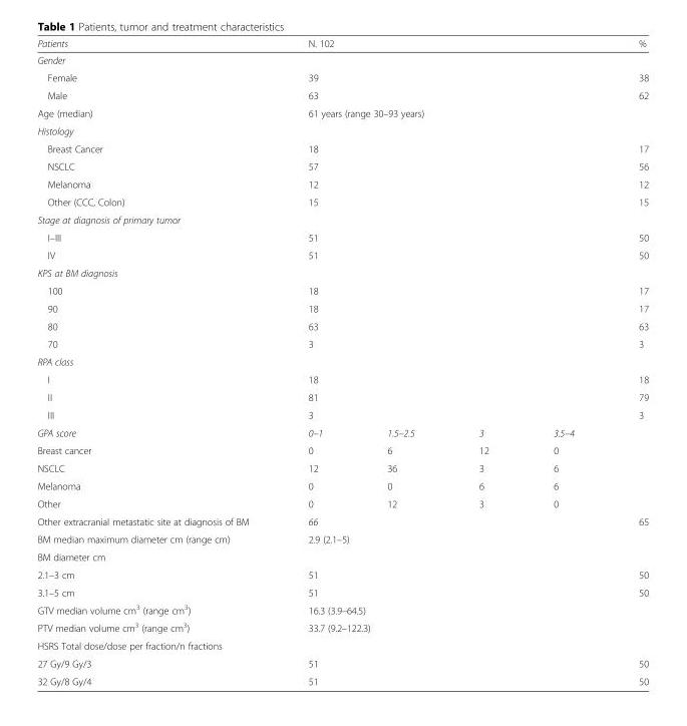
<table><thead><tr><td>Patients</td><td colspan="4">N. 102</td><td>%</td></tr></thead><tbody><tr><td colspan="6">Gender</td></tr><tr><td>Female</td><td colspan="4">39</td><td>38</td></tr><tr><td>Male</td><td colspan="4">63</td><td>62</td></tr><tr><td>Age (median)</td><td colspan="4">61 years (range 30–93 years)</td><td></td></tr><tr><td colspan="6">Histology</td></tr><tr><td>Breast Cancer</td><td colspan="4">18</td><td>17</td></tr><tr><td>NSCLC</td><td colspan="4">57</td><td>56</td></tr><tr><td>Melanoma</td><td colspan="4">12</td><td>12</td></tr><tr><td>Other (CCC, Colon)</td><td colspan="4">15</td><td>15</td></tr><tr><td colspan="6">Stage at diagnosis of primary tumor</td></tr><tr><td>I–III</td><td colspan="4">51</td><td>50</td></tr><tr><td>IV</td><td colspan="4">51</td><td>50</td></tr><tr><td colspan="6">KPS at BM diagnosis</td></tr><tr><td>100</td><td colspan="4">18</td><td>17</td></tr><tr><td>90</td><td colspan="4">18</td><td>17</td></tr><tr><td>80</td><td colspan="4">63</td><td>63</td></tr><tr><td>70</td><td colspan="4">3</td><td>3</td></tr><tr><td colspan="6">RPA class</td></tr><tr><td>I</td><td colspan="4">18</td><td>18</td></tr><tr><td>II</td><td colspan="4">81</td><td>79</td></tr><tr><td>III</td><td colspan="4">3</td><td>3</td></tr><tr><td>GPA score</td><td>0–1</td><td>1.5–2.5</td><td>3</td><td>3.5–4</td><td></td></tr><tr><td>Breast cancer</td><td>0</td><td>6</td><td>12</td><td>0</td><td></td></tr><tr><td>NSCLC</td><td>12</td><td>36</td><td>3</td><td>6</td><td></td></tr><tr><td>Melanoma</td><td>0</td><td>0</td><td>6</td><td>6</td><td></td></tr><tr><td>Other</td><td>0</td><td>12</td><td>3</td><td>0</td><td></td></tr><tr><td>Other extracranial metastatic site at diagnosis of BM</td><td colspan="4">66</td><td>65</td></tr><tr><td>BM median maximum diameter cm (range cm)</td><td colspan="4">2.9 (2.1–5)</td><td></td></tr><tr><td colspan="6">BM diameter cm</td></tr><tr><td>2.1–3 cm</td><td colspan="4">51</td><td>50</td></tr><tr><td>3.1–5 cm</td><td colspan="4">51</td><td>50</td></tr><tr><td>GTV median volume cm<sup>3</sup> (range cm<sup>3</sup>)</td><td colspan="4">16.3 (3.9–64.5)</td><td></td></tr><tr><td>PTV median volume cm<sup>3</sup> (range cm<sup>3</sup>)</td><td colspan="4">33.7 (9.2–122.3)</td><td></td></tr><tr><td colspan="6">HSRS Total dose/dose per fraction/n fractions</td></tr><tr><td>27 Gy/9 Gy/3</td><td colspan="4">51</td><td>50</td></tr><tr><td>32 Gy/8 Gy/4</td><td colspan="4">51</td><td>50</td></tr></tbody></table>